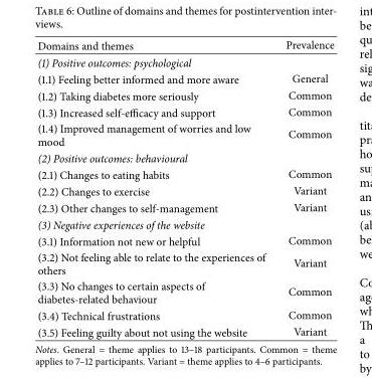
<table><thead><tr><td>Domains and themes</td><td>Prevalence</td></tr></thead><tbody><tr><td colspan="2">(1) Positive outcomes: psychological</td></tr><tr><td>(1.1) Feeling better informed and more aware</td><td>General</td></tr><tr><td>(1.2) Taking diabetes more seriously</td><td>Common</td></tr><tr><td>(1.3) Increased self-efficacy and support</td><td>Common</td></tr><tr><td>(1.4) Improved management of worries and low mood</td><td>Common</td></tr><tr><td colspan="2">(2) Positive outcomes: behavioural</td></tr><tr><td>(2.1) Changes to eating habits</td><td>Common</td></tr><tr><td>(2.2) Changes to exercise</td><td>Variant</td></tr><tr><td>(2.3) Other changes to self-management</td><td>Variant</td></tr><tr><td colspan="2">(3) Negative experiences of the website</td></tr><tr><td>(3.1) Information not new or helpful</td><td>Common</td></tr><tr><td>(3.2) Not feeling able to relate to the experiences of others</td><td>Variant</td></tr><tr><td>(3.3) No changes to certain aspects of diabetes-related behaviour</td><td>Common</td></tr><tr><td>(3.4) Technical frustrations</td><td>Common</td></tr><tr><td>(3.5) Feeling guilty about not using the website</td><td>Variant</td></tr></tbody></table>